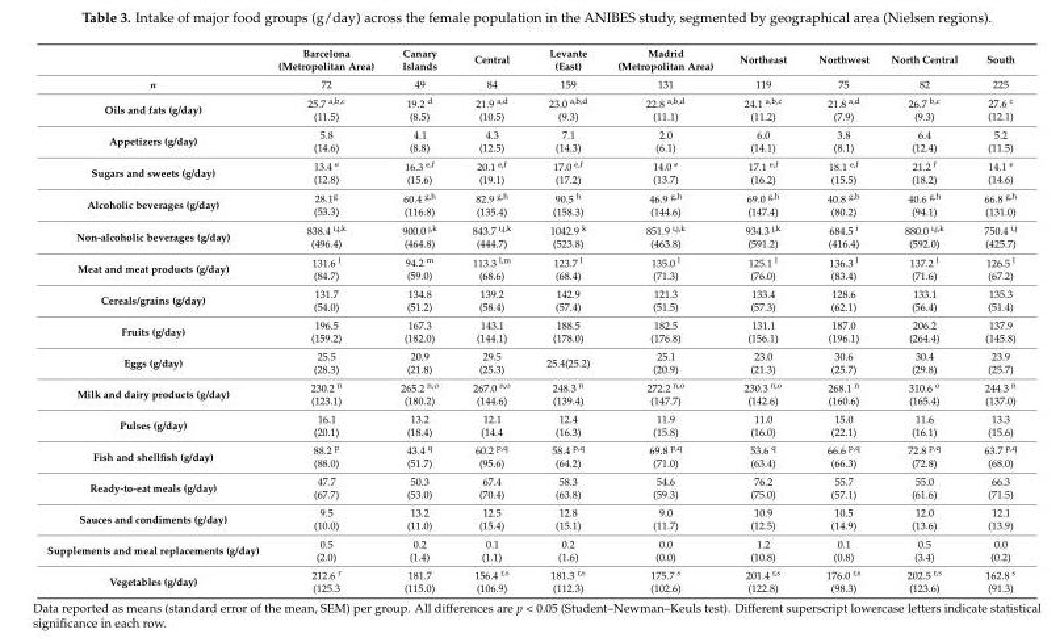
<table><thead><tr><td></td><td>Barcelona (Metropolitan Area)</td><td>Canary Islands</td><td>Central</td><td>Levante (East)</td><td>Madrid (Metropolitan Area)</td><td>Northeast</td><td>Northwest</td><td>North Central</td><td>South</td></tr></thead><tbody><tr><td>n</td><td>72</td><td>49</td><td>84</td><td>159</td><td>131</td><td>119</td><td>75</td><td>82</td><td>225</td></tr><tr><td>Oils and fats (g/day)</td><td>25.7 <sup>a,b,c</sup> (11.5)</td><td>19.2 <sup>d</sup> (8.5)</td><td>21.9 <sup>a,d</sup> (10.5)</td><td>23.0 <sup>a,b,d</sup> (9.3)</td><td>22.8 <sup>a,b,d</sup> (11.1)</td><td>24.1 <sup>a,b,c</sup> (11.2)</td><td>21.8 <sup>a,d</sup> (7.9)</td><td>26.7 <sup>b,c</sup> (9.3)</td><td>27.6 <sup>c</sup> (12.1)</td></tr><tr><td>Appetizers (g/day)</td><td>5.8 (14.6)</td><td>4.1 (8.8)</td><td>4.3 (12.5)</td><td>7.1 (14.3)</td><td>2.0 (6.1)</td><td>6.0 (14.1)</td><td>3.8 (8.1)</td><td>6.4 (12.4)</td><td>5.2 (11.5)</td></tr><tr><td>Sugars and sweets (g/day)</td><td>13.4 <sup>e</sup> (12.8)</td><td>16.3 <sup>e,f</sup> (15.6)</td><td>20.1 <sup>e,f</sup> (19.1)</td><td>17.0 <sup>e,f</sup> (17.2)</td><td>14.0 <sup>e</sup> (13.7)</td><td>17.1 <sup>e,f</sup> (16.2)</td><td>18.1 <sup>e,f</sup> (15.5)</td><td>21.2 <sup>f</sup> (18.2)</td><td>14.1 <sup>e</sup> (14.6)</td></tr><tr><td>Alcoholic beverages (g/day)</td><td>28.1<sup>g</sup> (53.3)</td><td>60.4 <sup>g,h</sup> (116.8)</td><td>82.9 <sup>g,h</sup> (135.4)</td><td>90.5 <sup>h</sup> (158.3)</td><td>46.9 <sup>g,h</sup> (144.6)</td><td>69.0 <sup>g,h</sup> (147.4)</td><td>40.8 <sup>g,h</sup> (80.2)</td><td>40.6 <sup>g,h</sup> (94.1)</td><td>66.8 <sup>g,h</sup> (131.0)</td></tr><tr><td>Non-alcoholic beverages (g/day)</td><td>838.4 <sup>i,j,k</sup> (496.4)</td><td>900.0 <sup>j,k</sup> (464.8)</td><td>843.7 <sup>i,j,k</sup> (444.7)</td><td>1042.9 <sup>k</sup> (523.8)</td><td>851.9 <sup>i,j,k</sup> (463.8)</td><td>934.3 <sup>j,k</sup> (591.2)</td><td>684.5 <sup>i</sup> (416.4)</td><td>880.0 <sup>i,j,k</sup> (592.0)</td><td>750.4 <sup>i,j</sup> (425.7)</td></tr><tr><td>Meat and meat products (g/day)</td><td>131.6 <sup>l</sup> (84.7)</td><td>94.2 <sup>m</sup> (59.0)</td><td>113.3 <sup>l,m</sup> (68.6)</td><td>123.7 <sup>l</sup> (68.4)</td><td>135.0 <sup>l</sup> (71.3)</td><td>125.1 <sup>l</sup> (76.0)</td><td>136.3 <sup>l</sup> (83.4)</td><td>137.2 <sup>l</sup> (71.6)</td><td>126.5 <sup>l</sup> (67.2)</td></tr><tr><td>Cereals/grains (g/day)</td><td>131.7 (54.0)</td><td>134.8 (51.2)</td><td>139.2 (58.4)</td><td>142.9 (57.4)</td><td>121.3 (51.5)</td><td>133.4 (57.3)</td><td>128.6 (62.1)</td><td>133.1 (56.4)</td><td>135.3 (51.4)</td></tr><tr><td>Fruits (g/day)</td><td>196.5 (159.2)</td><td>167.3 (182.0)</td><td>143.1 (144.1)</td><td>188.5 (178.0)</td><td>182.5 (176.8)</td><td>131.1 (156.1)</td><td>187.0 (196.1)</td><td>206.2 (264.4)</td><td>137.9 (145.8)</td></tr><tr><td>Eggs (g/day)</td><td>25.5 (28.3)</td><td>20.9 (21.8)</td><td>29.5 (25.3)</td><td>25.4(25.2)</td><td>25.1 (20.9)</td><td>23.0 (21.3)</td><td>30.6 (25.7)</td><td>30.4 (29.8)</td><td>23.9 (25.7)</td></tr><tr><td>Milk and dairy products (g/day)</td><td>230.2 <sup>n</sup> (123.1)</td><td>265.2 <sup>n,o</sup> (180.2)</td><td>267.0 <sup>n,o</sup> (144.6)</td><td>248.3 <sup>n</sup> (139.4)</td><td>272.2 <sup>n,o</sup> (147.7)</td><td>230.3 <sup>n,o</sup> (142.6)</td><td>268.1 <sup>n</sup> (160.6)</td><td>310.6 <sup>o</sup> (165.4)</td><td>244.3 <sup>n</sup> (137.0)</td></tr><tr><td>Pulses (g/day)</td><td>16.1 (20.1)</td><td>13.2 (18.4)</td><td>12.1 (14.4</td><td>12.4 (16.3)</td><td>11.9 (15.8)</td><td>11.0 (16.0)</td><td>15.0 (22.1)</td><td>11.6 (16.1)</td><td>13.3 (15.6)</td></tr><tr><td>Fish and shellfish (g/day)</td><td>88.2 <sup>p</sup> (88.0)</td><td>43.4 <sup>q</sup> (51.7)</td><td>60.2 <sup>p,q</sup> (95.6)</td><td>58.4 <sup>p,q</sup> (64.2)</td><td>69.8 <sup>p,q</sup> (71.0)</td><td>53.6 <sup>q</sup> (63.4)</td><td>66.6 <sup>p,q</sup> (66.3)</td><td>72.8 <sup>p,q</sup> (72.8)</td><td>63.7 <sup>p,q</sup> (68.0)</td></tr><tr><td>Ready-to-eat meals (g/day)</td><td>47.7 (67.7)</td><td>50.3 (53.0)</td><td>67.4 (70.4)</td><td>58.3 (63.8)</td><td>54.6 (59.3)</td><td>76.2 (75.0)</td><td>55.7 (57.1)</td><td>55.0 (61.6)</td><td>66.3 (71.5)</td></tr><tr><td>Sauces and condiments (g/day)</td><td>9.5 (10.0)</td><td>13.2 (11.0)</td><td>12.5 (15.4)</td><td>12.8 (15.1)</td><td>9.0 (11.7)</td><td>10.9 (12.5)</td><td>10.5 (14.9)</td><td>12.0 (13.6)</td><td>12.1 (13.9)</td></tr><tr><td>Supplements and meal replacements (g/day)</td><td>0.5 (2.0)</td><td>0.2 (1.4)</td><td>0.1 (1.1)</td><td>0.2 (1.6)</td><td>0.0 (0.0)</td><td>1.2 (10.8)</td><td>0.1 (0.8)</td><td>0.5 (3.4)</td><td>0.0 (0.2)</td></tr><tr><td>Vegetables (g/day)</td><td>212.6 <sup>r</sup> (125.3</td><td>181.7 (115.0)</td><td>156.4 <sup>r,s</sup> (106.9)</td><td>181.3 <sup>r,s</sup> (112.3)</td><td>175.7 <sup>s</sup> (102.6)</td><td>201.4 <sup>r,s</sup> (122.8)</td><td>176.0 <sup>r,s</sup> (98.3)</td><td>202.5 <sup>r,s</sup> (123.6)</td><td>162.8 <sup>s</sup> (91.3)</td></tr></tbody></table>